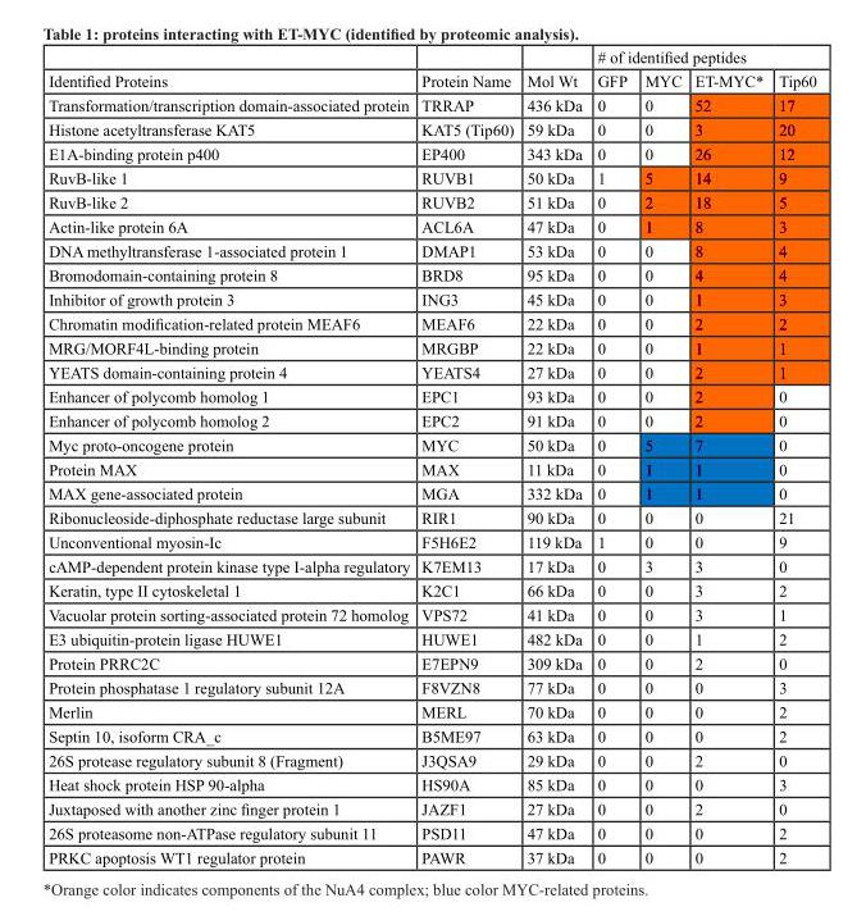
<table><thead><tr><td rowspan="2">Identified Proteins</td><td rowspan="2">Protein Name</td><td rowspan="2">Mol Wt</td><td colspan="4"># of identified peptides</td></tr><tr><td>GFP</td><td>MYC</td><td>ET-MYC*</td><td>Tip60</td></tr></thead><tbody><tr><td>Transformation/transcription domain-associated protein</td><td>TRRAP</td><td>436 kDa</td><td>0</td><td>0</td><td>52</td><td>17</td></tr><tr><td>Histone acetyltransferase KAT5</td><td>KAT5 (Tip60)</td><td>59 kDa</td><td>0</td><td>0</td><td>3</td><td>20</td></tr><tr><td>E1A-binding protein p400</td><td>EP400</td><td>343 kDa</td><td>0</td><td>0</td><td>26</td><td>12</td></tr><tr><td>RuvB-like 1</td><td>RUVB1</td><td>50 kDa</td><td>1</td><td>5</td><td>14</td><td>9</td></tr><tr><td>RuvB-like 2</td><td>RUVB2</td><td>51 kDa</td><td>0</td><td>2</td><td>18</td><td>5</td></tr><tr><td>Actin-like protein 6A</td><td>ACL6A</td><td>47 kDa</td><td>0</td><td>1</td><td>8</td><td>3</td></tr><tr><td>DNA methyltransferase 1-associated protein 1</td><td>DMAP1</td><td>53 kDa</td><td>0</td><td>0</td><td>8</td><td>4</td></tr><tr><td>Bromodomain-containing protein 8</td><td>BRD8</td><td>95 kDa</td><td>0</td><td>0</td><td>4</td><td>4</td></tr><tr><td>Inhibitor of growth protein 3</td><td>ING3</td><td>45 kDa</td><td>0</td><td>0</td><td>1</td><td>3</td></tr><tr><td>Chromatin modification-related protein MEAF6</td><td>MEAF6</td><td>22 kDa</td><td>0</td><td>0</td><td>2</td><td>2</td></tr><tr><td>MRG/MORF4L-binding protein</td><td>MRGBP</td><td>22 kDa</td><td>0</td><td>0</td><td>1</td><td>1</td></tr><tr><td>YEATS domain-containing protein 4</td><td>YEATS4</td><td>27 kDa</td><td>0</td><td>0</td><td>2</td><td>1</td></tr><tr><td>Enhancer of polycomb homolog 1</td><td>EPC1</td><td>93 kDa</td><td>0</td><td>0</td><td>2</td><td>0</td></tr><tr><td>Enhancer of polycomb homolog 2</td><td>EPC2</td><td>91 kDa</td><td>0</td><td>0</td><td>2</td><td>0</td></tr><tr><td>Myc proto-oncogene protein</td><td>MYC</td><td>50 kDa</td><td>0</td><td>5</td><td>7</td><td>0</td></tr><tr><td>Protein MAX</td><td>MAX</td><td>11 kDa</td><td>0</td><td>1</td><td>1</td><td>0</td></tr><tr><td>MAX gene-associated protein</td><td>MGA</td><td>332 kDa</td><td>0</td><td>1</td><td>1</td><td>0</td></tr><tr><td>Ribonucleoside-diphosphate reductase large subunit</td><td>RIR1</td><td>90 kDa</td><td>0</td><td>0</td><td>0</td><td>21</td></tr><tr><td>Unconventional myosin-Ic</td><td>F5H6E2</td><td>119 kDa</td><td>1</td><td>0</td><td>0</td><td>9</td></tr><tr><td>cAMP-dependent protein kinase type I-alpha regulatory</td><td>K7EM13</td><td>17 kDa</td><td>0</td><td>3</td><td>3</td><td>0</td></tr><tr><td>Keratin, type II cytoskeletal 1</td><td>K2C1</td><td>66 kDa</td><td>0</td><td>0</td><td>3</td><td>2</td></tr><tr><td>Vacuolar protein sorting-associated protein 72 homolog</td><td>VPS72</td><td>41 kDa</td><td>0</td><td>0</td><td>3</td><td>1</td></tr><tr><td>E3 ubiquitin-protein ligase HUWE1</td><td>HUWE1</td><td>482 kDa</td><td>0</td><td>0</td><td>1</td><td>2</td></tr><tr><td>Protein PRRC2C</td><td>E7EPN9</td><td>309 kDa</td><td>0</td><td>0</td><td>2</td><td>0</td></tr><tr><td>Protein phosphatase 1 regulatory subunit 12A</td><td>F8VZN8</td><td>77 kDa</td><td>0</td><td>0</td><td>0</td><td>3</td></tr><tr><td>Merlin</td><td>MERL</td><td>70 kDa</td><td>0</td><td>0</td><td>0</td><td>2</td></tr><tr><td>Septin 10, isoform CRA_c</td><td>B5ME97</td><td>63 kDa</td><td>0</td><td>0</td><td>0</td><td>2</td></tr><tr><td>26S protease regulatory subunit 8 (Fragment)</td><td>J3QSA9</td><td>29 kDa</td><td>0</td><td>0</td><td>2</td><td>0</td></tr><tr><td>Heat shock protein HSP 90-alpha</td><td>HS90A</td><td>85 kDa</td><td>0</td><td>0</td><td>0</td><td>3</td></tr><tr><td>Juxtaposed with another zinc finger protein 1</td><td>JAZF1</td><td>27 kDa</td><td>0</td><td>0</td><td>2</td><td>0</td></tr><tr><td>26S proteasome non-ATPase regulatory subunit 11</td><td>PSD11</td><td>47 kDa</td><td>0</td><td>0</td><td>0</td><td>2</td></tr><tr><td>PRKC apoptosis WT1 regulator protein</td><td>PAWR</td><td>37 kDa</td><td>0</td><td>0</td><td>0</td><td>2</td></tr></tbody></table>